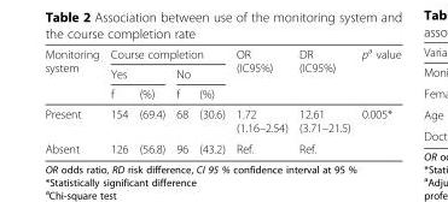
<table><thead><tr><td rowspan="3">Monitoring system</td><td colspan="4">Course completion</td><td rowspan="3">OR (IC95%)</td><td rowspan="3">DR (IC95%)</td><td rowspan="3">p<sup>a</sup> value</td></tr><tr><td colspan="2">Yes</td><td colspan="2">No</td></tr><tr><td>f</td><td>(%)</td><td>f</td><td>(%)</td></tr></thead><tbody><tr><td>Present</td><td>154</td><td>(69.4)</td><td>68</td><td>(30.6)</td><td>1.72 (1.16–2.54)</td><td>12.61 (3.71–21.5)</td><td rowspan="2">0.005*</td></tr><tr><td>Absent</td><td>126</td><td>(56.8)</td><td>96</td><td>(43.2)</td><td>Ref.</td><td>Ref.</td></tr></tbody></table>